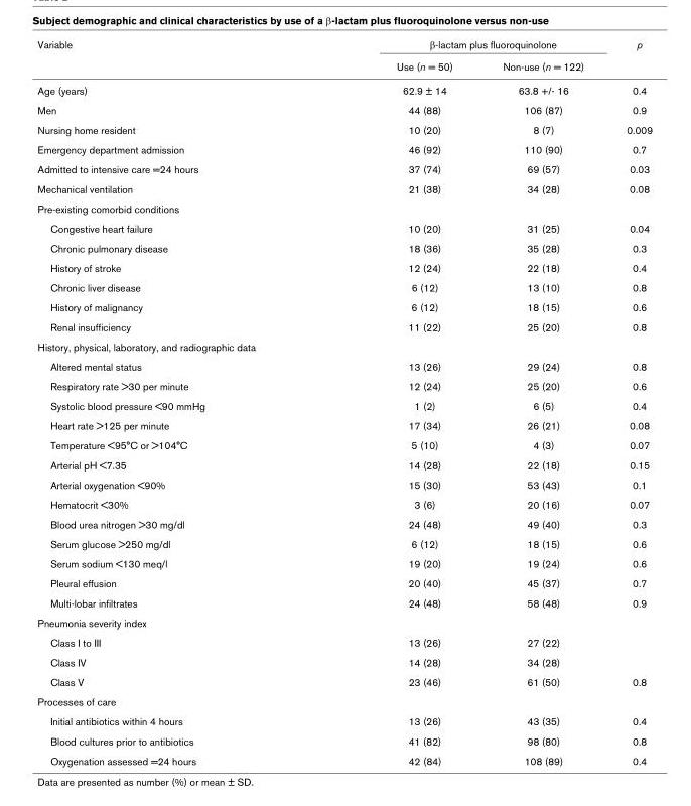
<table><thead><tr><td rowspan="2">Variable</td><td colspan="2">β-lactam plus fluoroquinolone</td><td rowspan="2">p</td></tr><tr><td>Use (n = 50)</td><td>Non-use (n = 122)</td></tr></thead><tbody><tr><td>Age (years)</td><td>62.9 ± 14</td><td>63.8 +/- 16</td><td>0.4</td></tr><tr><td>Men</td><td>44 (88)</td><td>106 (87)</td><td>0.9</td></tr><tr><td>Nursing home resident</td><td>10 (20)</td><td>8 (7)</td><td>0.009</td></tr><tr><td>Emergency department admission</td><td>46 (92)</td><td>110 (90)</td><td>0.7</td></tr><tr><td>Admitted to intensive care =24 hours</td><td>37 (74)</td><td>69 (57)</td><td>0.03</td></tr><tr><td>Mechanical ventilation</td><td>21 (38)</td><td>34 (28)</td><td>0.08</td></tr><tr><td colspan="4">Pre-existing comorbid conditions</td></tr><tr><td>Congestive heart failure</td><td>10 (20)</td><td>31 (25)</td><td>0.04</td></tr><tr><td>Chronic pulmonary disease</td><td>18 (36)</td><td>35 (28)</td><td>0.3</td></tr><tr><td>History of stroke</td><td>12 (24)</td><td>22 (18)</td><td>0.4</td></tr><tr><td>Chronic liver disease</td><td>6 (12)</td><td>13 (10)</td><td>0.8</td></tr><tr><td>History of malignancy</td><td>6 (12)</td><td>18 (15)</td><td>0.6</td></tr><tr><td>Renal insufficiency</td><td>11 (22)</td><td>25 (20)</td><td>0.8</td></tr><tr><td colspan="4">History, physical, laboratory, and radiographic data</td></tr><tr><td>Altered mental status</td><td>13 (26)</td><td>29 (24)</td><td>0.8</td></tr><tr><td>Respiratory rate &gt;30 per minute</td><td>12 (24)</td><td>25 (20)</td><td>0.6</td></tr><tr><td>Systolic blood pressure &lt;90 mmHg</td><td>1 (2)</td><td>6 (5)</td><td>0.4</td></tr><tr><td>Heart rate &gt;125 per minute</td><td>17 (34)</td><td>26 (21)</td><td>0.08</td></tr><tr><td>Temperature &lt;95°C or &gt;104°C</td><td>5 (10)</td><td>4 (3)</td><td>0.07</td></tr><tr><td>Arterial pH &lt;7.35</td><td>14 (28)</td><td>22 (18)</td><td>0.15</td></tr><tr><td>Arterial oxygenation &lt;90%</td><td>15 (30)</td><td>53 (43)</td><td>0.1</td></tr><tr><td>Hematocrit &lt;30%</td><td>3 (6)</td><td>20 (16)</td><td>0.07</td></tr><tr><td>Blood urea nitrogen &gt;30 mg/dl</td><td>24 (48)</td><td>49 (40)</td><td>0.3</td></tr><tr><td>Serum glucose &gt;250 mg/dl</td><td>6 (12)</td><td>18 (15)</td><td>0.6</td></tr><tr><td>Serum sodium &lt;130 meq/l</td><td>19 (20)</td><td>19 (24)</td><td>0.6</td></tr><tr><td>Pleural effusion</td><td>20 (40)</td><td>45 (37)</td><td>0.7</td></tr><tr><td>Multi-lobar infiltrates</td><td>24 (48)</td><td>58 (48)</td><td>0.9</td></tr><tr><td colspan="4">Pneumonia severity index</td></tr><tr><td>Class I to III</td><td>13 (26)</td><td>27 (22)</td><td></td></tr><tr><td>Class IV</td><td>14 (28)</td><td>34 (28)</td><td></td></tr><tr><td>Class V</td><td>23 (46)</td><td>61 (50)</td><td>0.8</td></tr><tr><td colspan="4">Processes of care</td></tr><tr><td>Initial antibiotics within 4 hours</td><td>13 (26)</td><td>43 (35)</td><td>0.4</td></tr><tr><td>Blood cultures prior to antibiotics</td><td>41 (82)</td><td>98 (80)</td><td>0.8</td></tr><tr><td>Oxygenation assessed =24 hours</td><td>42 (84)</td><td>108 (89)</td><td>0.4</td></tr></tbody></table>